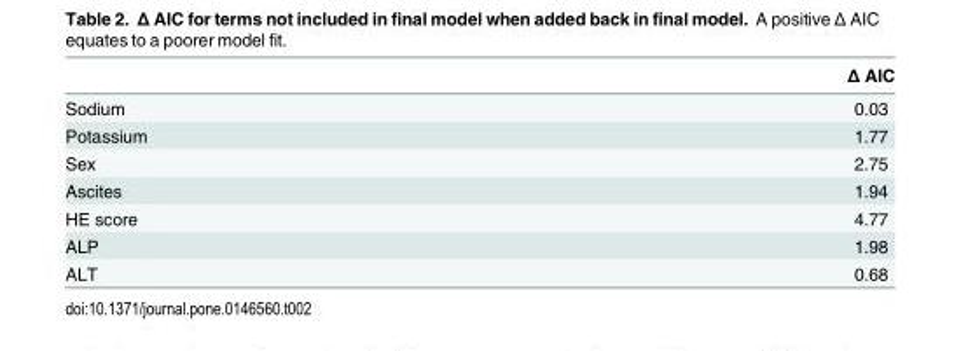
<table><thead><tr><td></td><td>Δ AIC</td></tr></thead><tbody><tr><td>Sodium</td><td>0.03</td></tr><tr><td>Potassium</td><td>1.77</td></tr><tr><td>Sex</td><td>2.75</td></tr><tr><td>Ascites</td><td>1.94</td></tr><tr><td>HE score</td><td>4.77</td></tr><tr><td>ALP</td><td>1.98</td></tr><tr><td>ALT</td><td>0.68</td></tr></tbody></table>